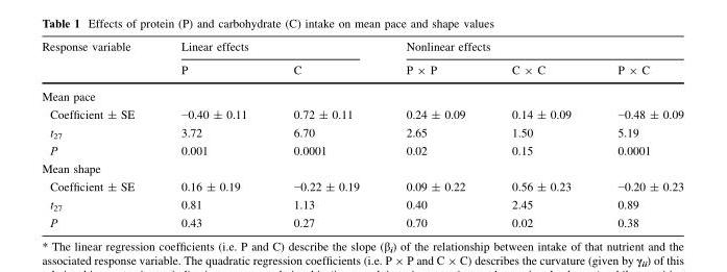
<table><thead><tr><td rowspan="2">Response variable</td><td colspan="2">Linear effects</td><td colspan="3">Nonlinear effects</td></tr><tr><td>P</td><td>C</td><td>P × P</td><td>C × C</td><td>P × C</td></tr></thead><tbody><tr><td colspan="6">Mean pace</td></tr><tr><td>Coefficient ± SE</td><td>−0.40 ± 0.11</td><td>0.72 ± 0.11</td><td>0.24 ± 0.09</td><td>0.14 ± 0.09</td><td>−0.48 ± 0.09</td></tr><tr><td>t<sub>27</sub></td><td>3.72</td><td>6.70</td><td>2.65</td><td>1.50</td><td>5.19</td></tr><tr><td>P</td><td>0.001</td><td>0.0001</td><td>0.02</td><td>0.15</td><td>0.0001</td></tr><tr><td colspan="6">Mean shape</td></tr><tr><td>Coefficient ± SE</td><td>0.16 ± 0.19</td><td>−0.22 ± 0.19</td><td>0.09 ± 0.22</td><td>0.56 ± 0.23</td><td>−0.20 ± 0.23</td></tr><tr><td>t<sub>27</sub></td><td>0.81</td><td>1.13</td><td>0.40</td><td>2.45</td><td>0.89</td></tr><tr><td>P</td><td>0.43</td><td>0.27</td><td>0.70</td><td>0.02</td><td>0.38</td></tr></tbody></table>